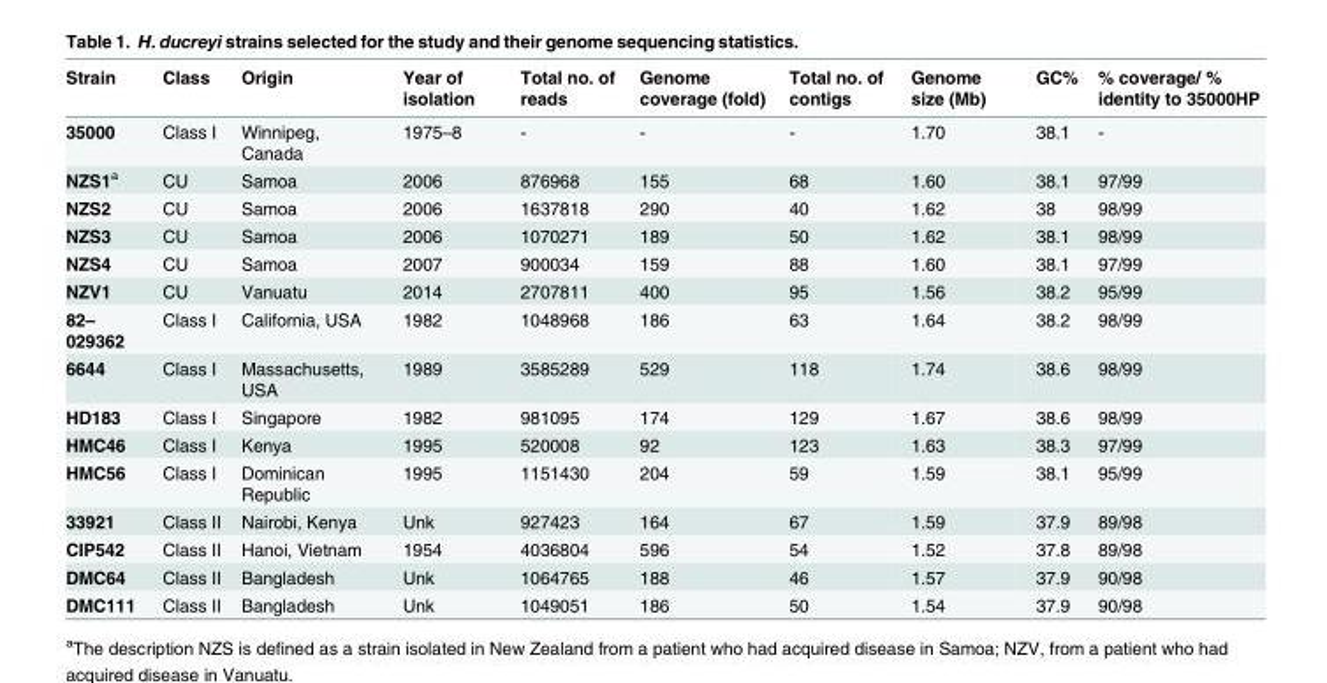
<table><thead><tr><td>Strain</td><td>Class</td><td>Origin</td><td>Year of isolation</td><td>Total no. of reads</td><td>Genome coverage (fold)</td><td>Total no. of contigs</td><td>Genome size (Mb)</td><td>GC%</td><td>% coverage/ % identity to 35000HP</td></tr></thead><tbody><tr><td>35000</td><td>Class I</td><td>Winnipeg, Canada</td><td>1975–8</td><td>-</td><td>-</td><td>-</td><td>1.70</td><td>38.1</td><td>-</td></tr><tr><td>NZS1a</td><td>CU</td><td>Samoa</td><td>2006</td><td>876968</td><td>155</td><td>68</td><td>1.60</td><td>38.1</td><td>97/99</td></tr><tr><td>NZS2</td><td>CU</td><td>Samoa</td><td>2006</td><td>1637818</td><td>290</td><td>40</td><td>1.62</td><td>38</td><td>98/99</td></tr><tr><td>NZS3</td><td>CU</td><td>Samoa</td><td>2006</td><td>1070271</td><td>189</td><td>50</td><td>1.62</td><td>38.1</td><td>98/99</td></tr><tr><td>NZS4</td><td>CU</td><td>Samoa</td><td>2007</td><td>900034</td><td>159</td><td>88</td><td>1.60</td><td>38.1</td><td>97/99</td></tr><tr><td>NZV1</td><td>CU</td><td>Vanuatu</td><td>2014</td><td>2707811</td><td>400</td><td>95</td><td>1.56</td><td>38.2</td><td>95/99</td></tr><tr><td>82– 029362</td><td>Class I</td><td>California, USA</td><td>1982</td><td>1048968</td><td>186</td><td>63</td><td>1.64</td><td>38.2</td><td>98/99</td></tr><tr><td>6644</td><td>Class I</td><td>Massachusetts, USA</td><td>1989</td><td>3585289</td><td>529</td><td>118</td><td>1.74</td><td>38.6</td><td>98/99</td></tr><tr><td>HD183</td><td>Class I</td><td>Singapore</td><td>1982</td><td>981095</td><td>174</td><td>129</td><td>1.67</td><td>38.6</td><td>98/99</td></tr><tr><td>HMC46</td><td>Class I</td><td>Kenya</td><td>1995</td><td>520008</td><td>92</td><td>123</td><td>1.63</td><td>38.3</td><td>97/99</td></tr><tr><td>HMC56</td><td>Class I</td><td>Dominican Republic</td><td>1995</td><td>1151430</td><td>204</td><td>59</td><td>1.59</td><td>38.1</td><td>95/99</td></tr><tr><td>33921</td><td>Class II</td><td>Nairobi, Kenya</td><td>Unk</td><td>927423</td><td>164</td><td>67</td><td>1.59</td><td>37.9</td><td>89/98</td></tr><tr><td>CIP542</td><td>Class II</td><td>Hanoi, Vietnam</td><td>1954</td><td>4036804</td><td>596</td><td>54</td><td>1.52</td><td>37.8</td><td>89/98</td></tr><tr><td>DMC64</td><td>Class II</td><td>Bangladesh</td><td>Unk</td><td>1064765</td><td>188</td><td>46</td><td>1.57</td><td>37.9</td><td>90/98</td></tr><tr><td>DMC111</td><td>Class II</td><td>Bangladesh</td><td>Unk</td><td>1049051</td><td>186</td><td>50</td><td>1.54</td><td>37.9</td><td>90/98</td></tr></tbody></table>